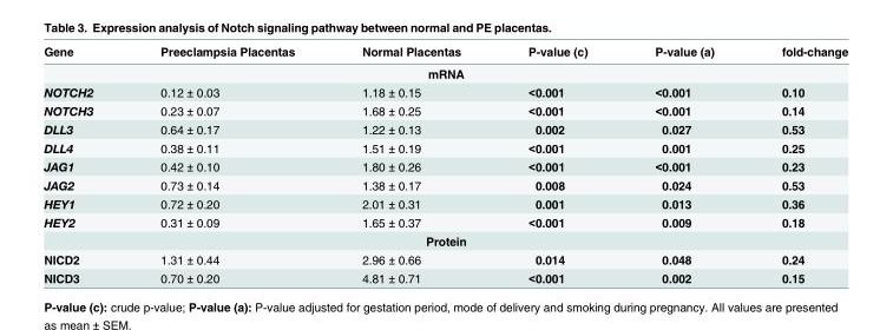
<table><thead><tr><td>Gene</td><td>Preeclampsia Placentas</td><td>Normal Placentas</td><td>P-value (c)</td><td>P-value (a)</td><td>fold-change</td></tr></thead><tbody><tr><td colspan="6">mRNA</td></tr><tr><td>NOTCH2</td><td>0.12 ± 0.03</td><td>1.18 ± 0.15</td><td>&lt;0.001</td><td>&lt;0.001</td><td>0.10</td></tr><tr><td>NOTCH3</td><td>0.23 ± 0.07</td><td>1.68 ± 0.25</td><td>&lt;0.001</td><td>&lt;0.001</td><td>0.14</td></tr><tr><td>DLL3</td><td>0.64 ± 0.17</td><td>1.22 ± 0.13</td><td>0.002</td><td>0.027</td><td>0.53</td></tr><tr><td>DLL4</td><td>0.38 ± 0.11</td><td>1.51 ± 0.19</td><td>&lt;0.001</td><td>0.001</td><td>0.25</td></tr><tr><td>JAG1</td><td>0.42 ± 0.10</td><td>1.80 ± 0.26</td><td>&lt;0.001</td><td>&lt;0.001</td><td>0.23</td></tr><tr><td>JAG2</td><td>0.73 ± 0.14</td><td>1.38 ± 0.17</td><td>0.008</td><td>0.024</td><td>0.53</td></tr><tr><td>HEY1</td><td>0.72 ± 0.20</td><td>2.01 ± 0.31</td><td>0.001</td><td>0.013</td><td>0.36</td></tr><tr><td>HEY2</td><td>0.31 ± 0.09</td><td>1.65 ± 0.37</td><td>&lt;0.001</td><td>0.009</td><td>0.18</td></tr><tr><td colspan="6">Protein</td></tr><tr><td>NICD2</td><td>1.31 ± 0.44</td><td>2.96 ± 0.66</td><td>0.014</td><td>0.048</td><td>0.24</td></tr><tr><td>NICD3</td><td>0.70 ± 0.20</td><td>4.81 ± 0.71</td><td>&lt;0.001</td><td>0.002</td><td>0.15</td></tr></tbody></table>